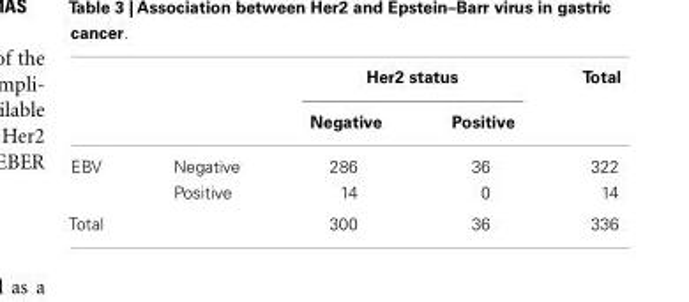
<table><thead><tr><td rowspan="2"></td><td rowspan="2"></td><td colspan="2">Her2 status</td><td rowspan="2">Total</td></tr><tr><td>Negative</td><td>Positive</td></tr></thead><tbody><tr><td rowspan="2">EBV</td><td>Negative</td><td>286</td><td>36</td><td>322</td></tr><tr><td>Positive</td><td>14</td><td>0</td><td>14</td></tr><tr><td>Total</td><td></td><td>300</td><td>36</td><td>336</td></tr></tbody></table>